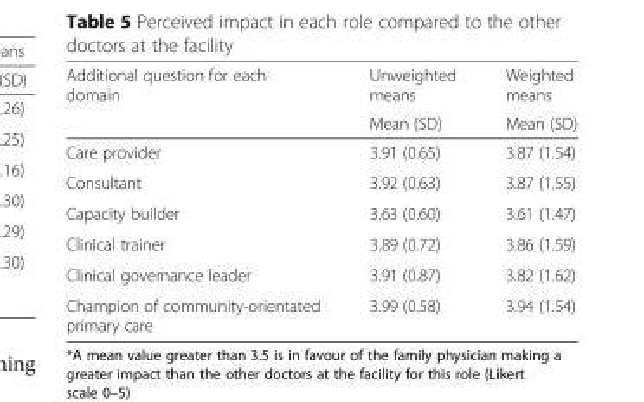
<table><thead><tr><td rowspan="2">Additional question for each domain</td><td rowspan="2">Unweighted means Mean (SD)</td><td rowspan="2">Weighted means Mean (SD)</td></tr><tr></tr></thead><tbody><tr><td>Care provider</td><td>3.91 (0.65)</td><td>3.87 (1.54)</td></tr><tr><td>Consultant</td><td>3.92 (0.63)</td><td>3.87 (1.55)</td></tr><tr><td>Capacity builder</td><td>3.63 (0.60)</td><td>3.61 (1.47)</td></tr><tr><td>Clinical trainer</td><td>3.89 (0.72)</td><td>3.86 (1.59)</td></tr><tr><td>Clinical governance leader</td><td>3.91 (0.87)</td><td>3.82 (1.62)</td></tr><tr><td>Champion of community-orientated primary care</td><td>3.99 (0.58)</td><td>3.94 (1.54)</td></tr></tbody></table>